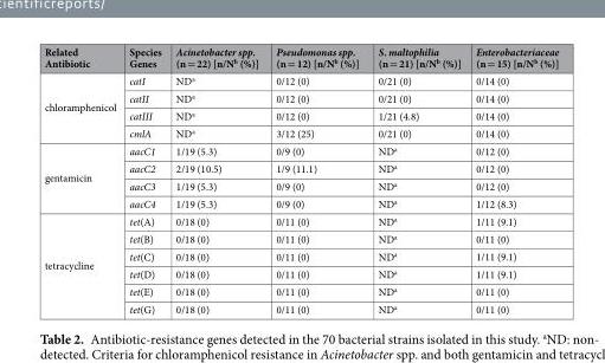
<table><thead><tr><td>Related Antibiotic</td><td>Species Genes</td><td>Acinetobacter spp. (n = 22) [n/N<sup>b</sup> (%)]</td><td>Pseudomonas spp. (n = 12) [n/N<sup>b</sup> (%)]</td><td>S. maltophilia (n = 21) [n/N<sup>b</sup> (%)]</td><td>Enterobacteriaceae (n = 15) [n/N<sup>b</sup> (%)]</td></tr></thead><tbody><tr><td rowspan="4">chloramphenicol</td><td>catI</td><td>ND<sup>a</sup></td><td>0/12 (0)</td><td>0/21 (0)</td><td>0/14 (0)</td></tr><tr><td>catII</td><td>ND<sup>a</sup></td><td>0/12 (0)</td><td>0/21 (0)</td><td>0/14 (0)</td></tr><tr><td>catIII</td><td>ND<sup>a</sup></td><td>0/12 (0)</td><td>1/21 (4.8)</td><td>0/14 (0)</td></tr><tr><td>cmlA</td><td>ND<sup>a</sup></td><td>3/12 (25)</td><td>0/21 (0)</td><td>0/14 (0)</td></tr><tr><td rowspan="4">gentamicin</td><td>aacC1</td><td>1/19 (5.3)</td><td>0/9 (0)</td><td>ND<sup>a</sup></td><td>0/12 (0)</td></tr><tr><td>aacC2</td><td>2/19 (10.5)</td><td>1/9 (11.1)</td><td>ND<sup>a</sup></td><td>0/12 (0)</td></tr><tr><td>aacC3</td><td>1/19 (5.3)</td><td>0/9 (0)</td><td>ND<sup>a</sup></td><td>0/12 (0)</td></tr><tr><td>aacC4</td><td>1/19 (5.3)</td><td>0/9 (0)</td><td>ND<sup>a</sup></td><td>1/12 (8.3)</td></tr><tr><td rowspan="6">tetracycline</td><td>tet(A)</td><td>0/18 (0)</td><td>0/11 (0)</td><td>ND<sup>a</sup></td><td>1/11 (9.1)</td></tr><tr><td>tet(B)</td><td>0/18 (0)</td><td>0/11 (0)</td><td>ND<sup>a</sup></td><td>0/11 (0)</td></tr><tr><td>tet(C)</td><td>0/18 (0)</td><td>0/11 (0)</td><td>ND<sup>a</sup></td><td>1/11 (9.1)</td></tr><tr><td>tet(D)</td><td>0/18 (0)</td><td>0/11 (0)</td><td>ND<sup>a</sup></td><td>1/11 (9.1)</td></tr><tr><td>tet(E)</td><td>0/18 (0)</td><td>0/11 (0)</td><td>ND<sup>a</sup></td><td>0/11 (0)</td></tr><tr><td>tet(G)</td><td>0/18 (0)</td><td>0/11 (0)</td><td>ND<sup>a</sup></td><td>0/11 (0)</td></tr></tbody></table>